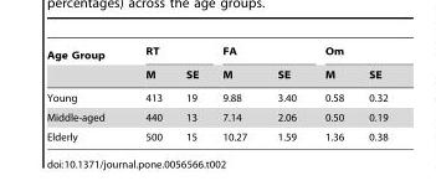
<table><thead><tr><td rowspan="2">Age Group</td><td colspan="2">RT</td><td colspan="2">FA</td><td colspan="2">Om</td></tr><tr><td>M</td><td>SE</td><td>M</td><td>SE</td><td>M</td><td>SE</td></tr></thead><tbody><tr><td>Young</td><td>413</td><td>19</td><td>9.88</td><td>3.40</td><td>0.58</td><td>0.32</td></tr><tr><td>Middle-aged</td><td>440</td><td>13</td><td>7.14</td><td>2.06</td><td>0.50</td><td>0.19</td></tr><tr><td>Elderly</td><td>500</td><td>15</td><td>10.27</td><td>1.59</td><td>1.36</td><td>0.38</td></tr></tbody></table>